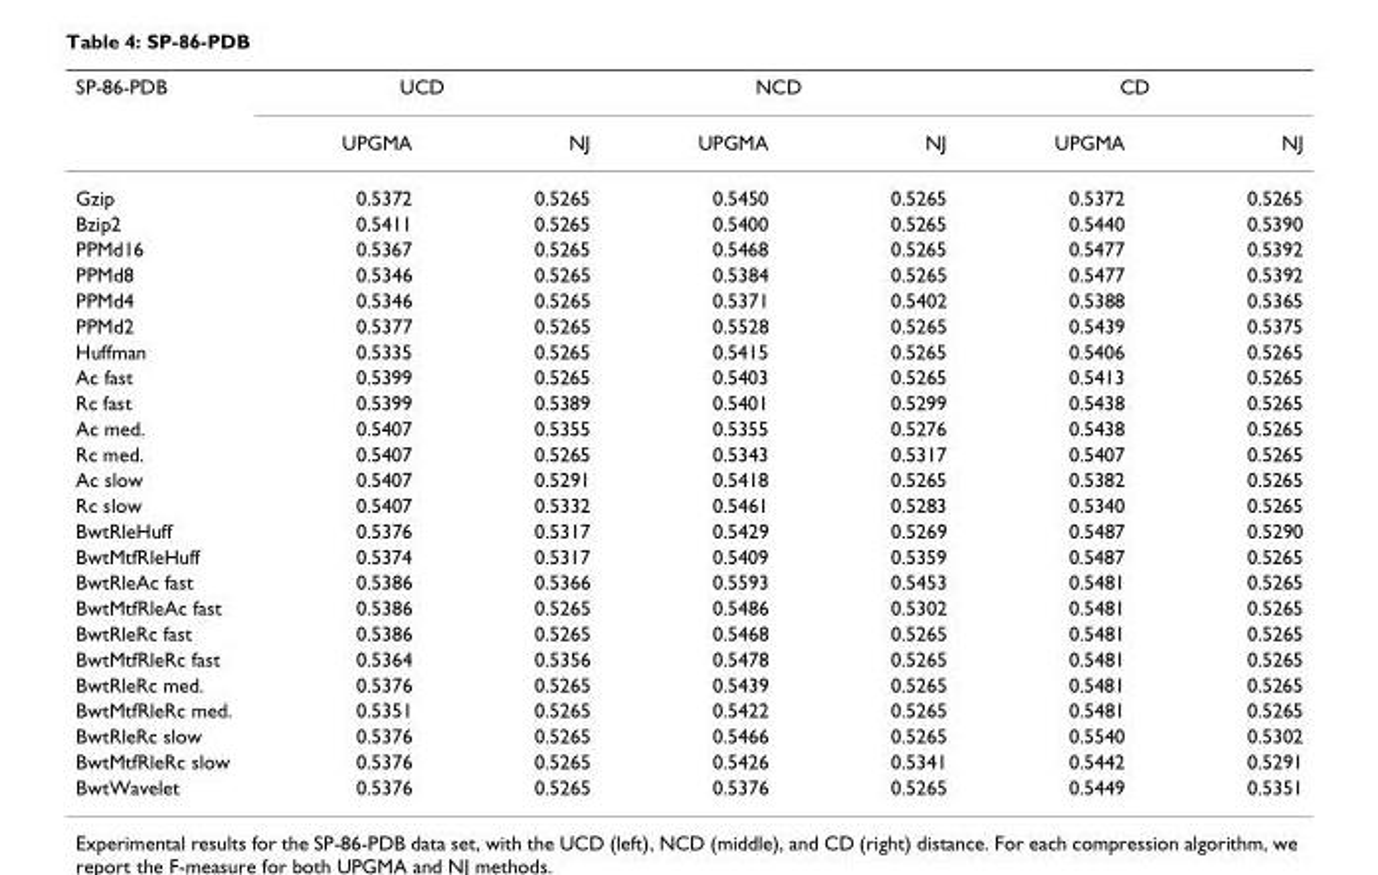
<table><thead><tr><td rowspan="2">SP-86-PDB</td><td colspan="2">UCD</td><td colspan="2">NCD</td><td colspan="2">CD</td></tr><tr><td>UPGMA</td><td>NJ</td><td>UPGMA</td><td>NJ</td><td>UPGMA</td><td>NJ</td></tr></thead><tbody><tr><td>Gzip</td><td>0.5372</td><td>0.5265</td><td>0.5450</td><td>0.5265</td><td>0.5372</td><td>0.5265</td></tr><tr><td>Bzip2</td><td>0.5411</td><td>0.5265</td><td>0.5400</td><td>0.5265</td><td>0.5440</td><td>0.5390</td></tr><tr><td>PPMd16</td><td>0.5367</td><td>0.5265</td><td>0.5468</td><td>0.5265</td><td>0.5477</td><td>0.5392</td></tr><tr><td>PPMd8</td><td>0.5346</td><td>0.5265</td><td>0.5384</td><td>0.5265</td><td>0.5477</td><td>0.5392</td></tr><tr><td>PPMd4</td><td>0.5346</td><td>0.5265</td><td>0.5371</td><td>0.5402</td><td>0.5388</td><td>0.5365</td></tr><tr><td>PPMd2</td><td>0.5377</td><td>0.5265</td><td>0.5528</td><td>0.5265</td><td>0.5439</td><td>0.5375</td></tr><tr><td>Huffman</td><td>0.5335</td><td>0.5265</td><td>0.5415</td><td>0.5265</td><td>0.5406</td><td>0.5265</td></tr><tr><td>Ac fast</td><td>0.5399</td><td>0.5265</td><td>0.5403</td><td>0.5265</td><td>0.5413</td><td>0.5265</td></tr><tr><td>Rc fast</td><td>0.5399</td><td>0.5389</td><td>0.5401</td><td>0.5299</td><td>0.5438</td><td>0.5265</td></tr><tr><td>Ac med.</td><td>0.5407</td><td>0.5355</td><td>0.5355</td><td>0.5276</td><td>0.5438</td><td>0.5265</td></tr><tr><td>Rc med.</td><td>0.5407</td><td>0.5265</td><td>0.5343</td><td>0.5317</td><td>0.5407</td><td>0.5265</td></tr><tr><td>Ac slow</td><td>0.5407</td><td>0.5291</td><td>0.5418</td><td>0.5265</td><td>0.5382</td><td>0.5265</td></tr><tr><td>Rc slow</td><td>0.5407</td><td>0.5332</td><td>0.5461</td><td>0.5283</td><td>0.5340</td><td>0.5265</td></tr><tr><td>BwtRleHuff</td><td>0.5376</td><td>0.5317</td><td>0.5429</td><td>0.5269</td><td>0.5487</td><td>0.5290</td></tr><tr><td>BwtMtfRleHuff</td><td>0.5374</td><td>0.5317</td><td>0.5409</td><td>0.5359</td><td>0.5487</td><td>0.5265</td></tr><tr><td>BwtRleAc fast</td><td>0.5386</td><td>0.5366</td><td>0.5593</td><td>0.5453</td><td>0.5481</td><td>0.5265</td></tr><tr><td>BwtMtfRleAc fast</td><td>0.5386</td><td>0.5265</td><td>0.5486</td><td>0.5302</td><td>0.5481</td><td>0.5265</td></tr><tr><td>BwtRleRc fast</td><td>0.5386</td><td>0.5265</td><td>0.5468</td><td>0.5265</td><td>0.5481</td><td>0.5265</td></tr><tr><td>BwtMtfRleRc fast</td><td>0.5364</td><td>0.5356</td><td>0.5478</td><td>0.5265</td><td>0.5481</td><td>0.5265</td></tr><tr><td>BwtRleRc med.</td><td>0.5376</td><td>0.5265</td><td>0.5439</td><td>0.5265</td><td>0.5481</td><td>0.5265</td></tr><tr><td>BwtMtfRleRc med.</td><td>0.5351</td><td>0.5265</td><td>0.5422</td><td>0.5265</td><td>0.5481</td><td>0.5265</td></tr><tr><td>BwtRleRc slow</td><td>0.5376</td><td>0.5265</td><td>0.5466</td><td>0.5265</td><td>0.5540</td><td>0.5302</td></tr><tr><td>BwtMtfRleRc slow</td><td>0.5376</td><td>0.5265</td><td>0.5426</td><td>0.5341</td><td>0.5442</td><td>0.5291</td></tr><tr><td>BwtWavelet</td><td>0.5376</td><td>0.5265</td><td>0.5376</td><td>0.5265</td><td>0.5449</td><td>0.5351</td></tr></tbody></table>